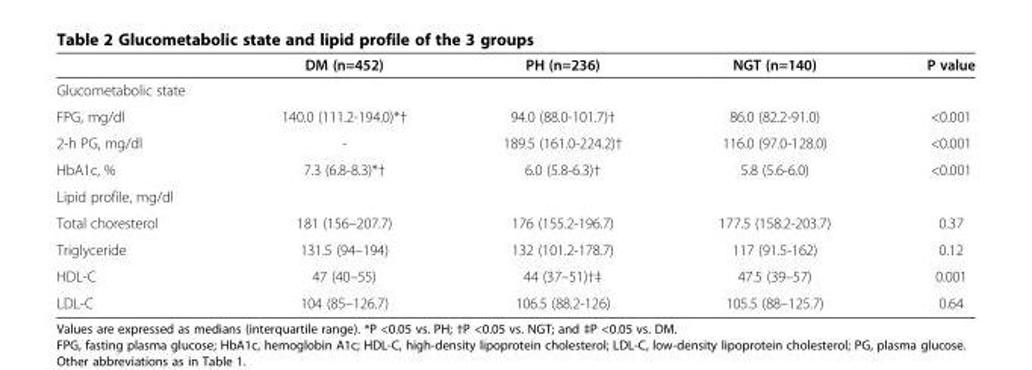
<table><thead><tr><td></td><td>DM (n=452)</td><td>PH (n=236)</td><td>NGT (n=140)</td><td>P value</td></tr></thead><tbody><tr><td colspan="5">Glucometabolic state</td></tr><tr><td>FPG, mg/dl</td><td>140.0 (111.2-194.0)*†</td><td>94.0 (88.0-101.7)†</td><td>86.0 (82.2-91.0)</td><td>&lt;0.001</td></tr><tr><td>2-h PG, mg/dl</td><td>-</td><td>189.5 (161.0-224.2)†</td><td>116.0 (97.0-128.0)</td><td>&lt;0.001</td></tr><tr><td>HbA1c, %</td><td>7.3 (6.8-8.3)*†</td><td>6.0 (5.8-6.3)†</td><td>5.8 (5.6-6.0)</td><td>&lt;0.001</td></tr><tr><td colspan="5">Lipid profile, mg/dl</td></tr><tr><td>Total choresterol</td><td>181 (156–207.7)</td><td>176 (155.2-196.7)</td><td>177.5 (158.2-203.7)</td><td>0.37</td></tr><tr><td>Triglyceride</td><td>131.5 (94–194)</td><td>132 (101.2-178.7)</td><td>117 (91.5-162)</td><td>0.12</td></tr><tr><td>HDL-C</td><td>47 (40–55)</td><td>44 (37–51)†‡</td><td>47.5 (39–57)</td><td>0.001</td></tr><tr><td>LDL-C</td><td>104 (85–126.7)</td><td>106.5 (88.2-126)</td><td>105.5 (88–125.7)</td><td>0.64</td></tr></tbody></table>